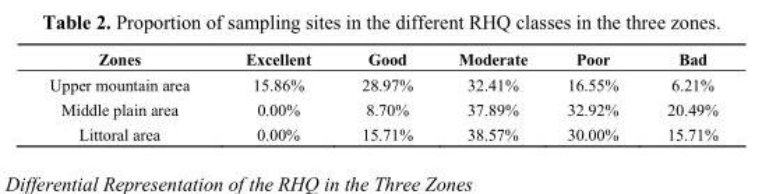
<table><thead><tr><td>Zones</td><td>Excellent</td><td>Good</td><td>Moderate</td><td>Poor</td><td>Bad</td></tr></thead><tbody><tr><td>Upper mountain area</td><td>15.86%</td><td>28.97%</td><td>32.41%</td><td>16.55%</td><td>6.21%</td></tr><tr><td>Middle plain area</td><td>0.00%</td><td>8.70%</td><td>37.89%</td><td>32.92%</td><td>20.49%</td></tr><tr><td>Littoral area</td><td>0.00%</td><td>15.71%</td><td>38.57%</td><td>30.00%</td><td>15.71%</td></tr></tbody></table>